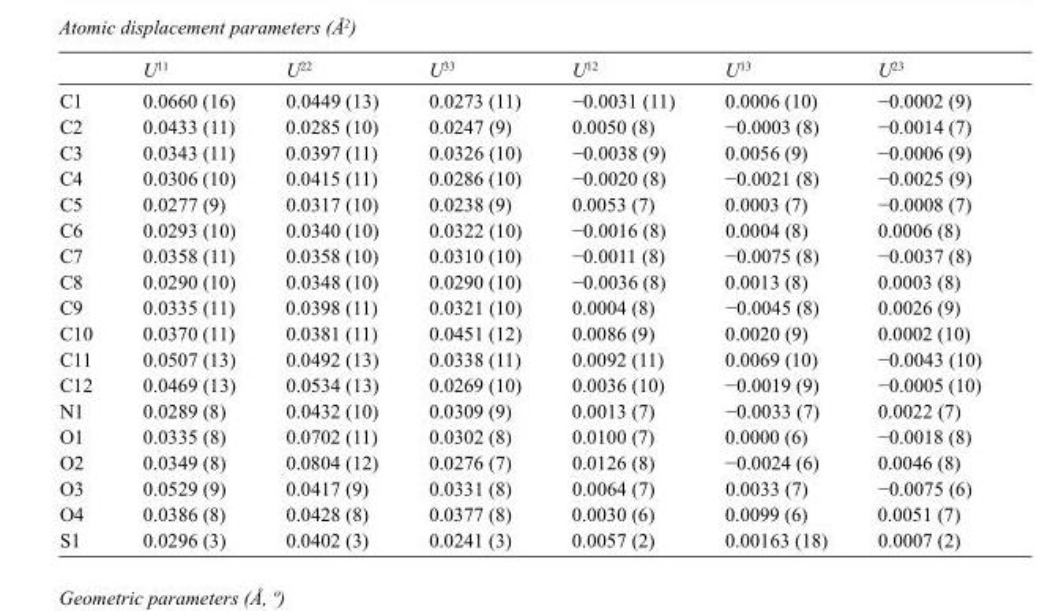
<table><thead><tr><td></td><td>U<sup>11</sup></td><td>U<sup>22</sup></td><td>U<sup>33</sup></td><td>U<sup>12</sup></td><td>U<sup>13</sup></td><td>U<sup>23</sup></td></tr></thead><tbody><tr><td>C1</td><td>0.0660 (16)</td><td>0.0449 (13)</td><td>0.0273 (11)</td><td>−0.0031 (11)</td><td>0.0006 (10)</td><td>−0.0002 (9)</td></tr><tr><td>C2</td><td>0.0433 (11)</td><td>0.0285 (10)</td><td>0.0247 (9)</td><td>0.0050 (8)</td><td>−0.0003 (8)</td><td>−0.0014 (7)</td></tr><tr><td>C3</td><td>0.0343 (11)</td><td>0.0397 (11)</td><td>0.0326 (10)</td><td>−0.0038 (9)</td><td>0.0056 (9)</td><td>−0.0006 (9)</td></tr><tr><td>C4</td><td>0.0306 (10)</td><td>0.0415 (11)</td><td>0.0286 (10)</td><td>−0.0020 (8)</td><td>−0.0021 (8)</td><td>−0.0025 (9)</td></tr><tr><td>C5</td><td>0.0277 (9)</td><td>0.0317 (10)</td><td>0.0238 (9)</td><td>0.0053 (7)</td><td>0.0003 (7)</td><td>−0.0008 (7)</td></tr><tr><td>C6</td><td>0.0293 (10)</td><td>0.0340 (10)</td><td>0.0322 (10)</td><td>−0.0016 (8)</td><td>0.0004 (8)</td><td>0.0006 (8)</td></tr><tr><td>C7</td><td>0.0358 (11)</td><td>0.0358 (10)</td><td>0.0310 (10)</td><td>−0.0011 (8)</td><td>−0.0075 (8)</td><td>−0.0037 (8)</td></tr><tr><td>C8</td><td>0.0290 (10)</td><td>0.0348 (10)</td><td>0.0290 (10)</td><td>−0.0036 (8)</td><td>0.0013 (8)</td><td>0.0003 (8)</td></tr><tr><td>C9</td><td>0.0335 (11)</td><td>0.0398 (11)</td><td>0.0321 (10)</td><td>0.0004 (8)</td><td>−0.0045 (8)</td><td>0.0026 (9)</td></tr><tr><td>C10</td><td>0.0370 (11)</td><td>0.0381 (11)</td><td>0.0451 (12)</td><td>0.0086 (9)</td><td>0.0020 (9)</td><td>0.0002 (10)</td></tr><tr><td>C11</td><td>0.0507 (13)</td><td>0.0492 (13)</td><td>0.0338 (11)</td><td>0.0092 (11)</td><td>0.0069 (10)</td><td>−0.0043 (10)</td></tr><tr><td>C12</td><td>0.0469 (13)</td><td>0.0534 (13)</td><td>0.0269 (10)</td><td>0.0036 (10)</td><td>−0.0019 (9)</td><td>−0.0005 (10)</td></tr><tr><td>N1</td><td>0.0289 (8)</td><td>0.0432 (10)</td><td>0.0309 (9)</td><td>0.0013 (7)</td><td>−0.0033 (7)</td><td>0.0022 (7)</td></tr><tr><td>O1</td><td>0.0335 (8)</td><td>0.0702 (11)</td><td>0.0302 (8)</td><td>0.0100 (7)</td><td>0.0000 (6)</td><td>−0.0018 (8)</td></tr><tr><td>O2</td><td>0.0349 (8)</td><td>0.0804 (12)</td><td>0.0276 (7)</td><td>0.0126 (8)</td><td>−0.0024 (6)</td><td>0.0046 (8)</td></tr><tr><td>O3</td><td>0.0529 (9)</td><td>0.0417 (9)</td><td>0.0331 (8)</td><td>0.0064 (7)</td><td>0.0033 (7)</td><td>−0.0075 (6)</td></tr><tr><td>O4</td><td>0.0386 (8)</td><td>0.0428 (8)</td><td>0.0377 (8)</td><td>0.0030 (6)</td><td>0.0099 (6)</td><td>0.0051 (7)</td></tr><tr><td>S1</td><td>0.0296 (3)</td><td>0.0402 (3)</td><td>0.0241 (3)</td><td>0.0057 (2)</td><td>0.00163 (18)</td><td>0.0007 (2)</td></tr></tbody></table>